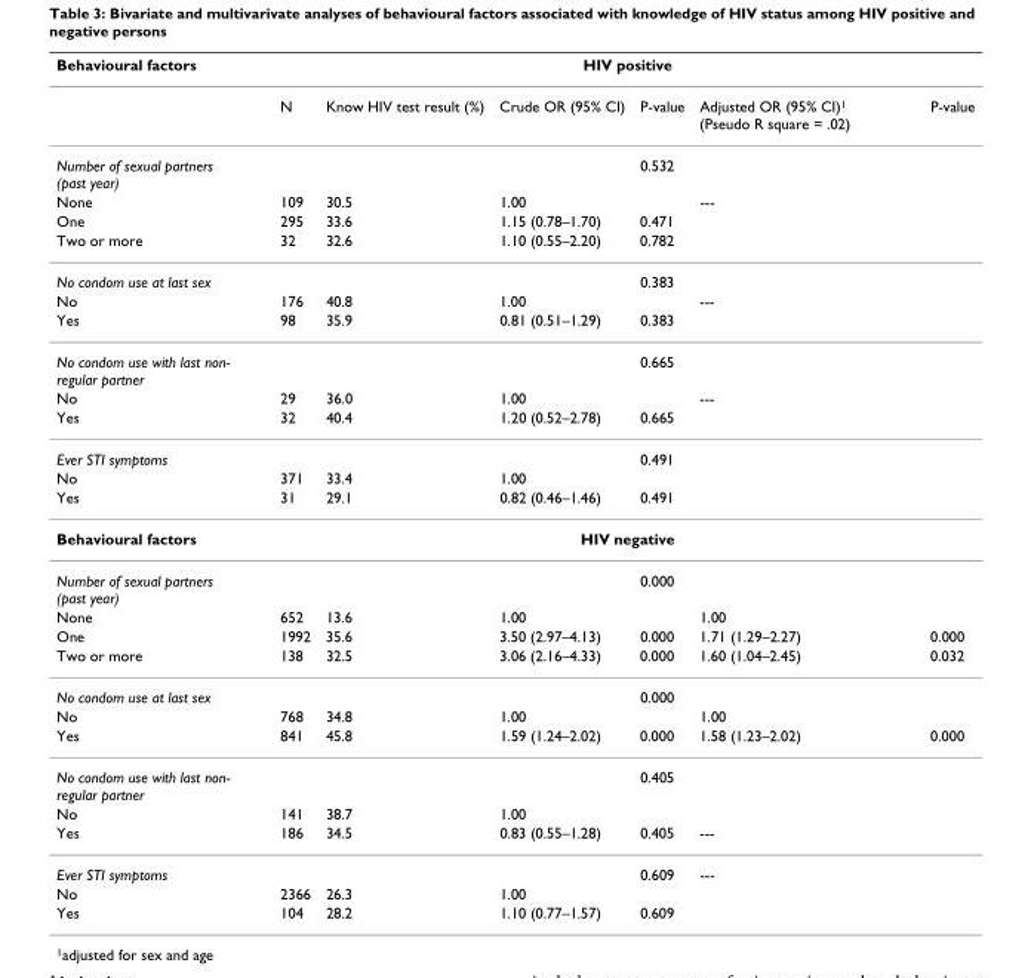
<table><thead><tr><td rowspan="2">Behavioural factors</td><td colspan="6">HIV positive</td></tr><tr><td>N</td><td>Know HIV test result (%)</td><td>Crude OR (95% CI)</td><td>P-value</td><td>Adjusted OR (95% CI)<sup>1</sup> (Pseudo R square = .02)</td><td>P-value</td></tr></thead><tbody><tr><td>Number of sexual partners (past year)</td><td></td><td></td><td></td><td>0.532</td><td></td><td></td></tr><tr><td>None</td><td>109</td><td>30.5</td><td>1.00</td><td></td><td>---</td><td></td></tr><tr><td>One</td><td>295</td><td>33.6</td><td>1.15 (0.78–1.70)</td><td>0.471</td><td></td><td></td></tr><tr><td>Two or more</td><td>32</td><td>32.6</td><td>1.10 (0.55–2.20)</td><td>0.782</td><td></td><td></td></tr><tr><td>No condom use at last sex</td><td></td><td></td><td></td><td>0.383</td><td></td><td></td></tr><tr><td>No</td><td>176</td><td>40.8</td><td>1.00</td><td></td><td>---</td><td></td></tr><tr><td>Yes</td><td>98</td><td>35.9</td><td>0.81 (0.51–1.29)</td><td>0.383</td><td></td><td></td></tr><tr><td>No condom use with last non- regular partner</td><td></td><td></td><td></td><td>0.665</td><td></td><td></td></tr><tr><td>No</td><td>29</td><td>36.0</td><td>1.00</td><td></td><td>---</td><td></td></tr><tr><td>Yes</td><td>32</td><td>40.4</td><td>1.20 (0.52–2.78)</td><td>0.665</td><td></td><td></td></tr><tr><td>Ever STI symptoms</td><td></td><td></td><td></td><td>0.491</td><td></td><td></td></tr><tr><td>No</td><td>371</td><td>33.4</td><td>1.00</td><td></td><td></td><td></td></tr><tr><td>Yes</td><td>31</td><td>29.1</td><td>0.82 (0.46–1.46)</td><td>0.491</td><td></td><td></td></tr><tr><td>Behavioural factors</td><td colspan="6">HIV negative</td></tr><tr><td>Number of sexual partners (past year)</td><td></td><td></td><td></td><td>0.000</td><td></td><td></td></tr><tr><td>None</td><td>652</td><td>13.6</td><td>1.00</td><td></td><td>1.00</td><td></td></tr><tr><td>One</td><td>1992</td><td>35.6</td><td>3.50 (2.97–4.13)</td><td>0.000</td><td>1.71 (1.29–2.27)</td><td>0.000</td></tr><tr><td>Two or more</td><td>138</td><td>32.5</td><td>3.06 (2.16–4.33)</td><td>0.000</td><td>1.60 (1.04–2.45)</td><td>0.032</td></tr><tr><td>No condom use at last sex</td><td></td><td></td><td></td><td>0.000</td><td></td><td></td></tr><tr><td>No</td><td>768</td><td>34.8</td><td>1.00</td><td></td><td>1.00</td><td></td></tr><tr><td>Yes</td><td>841</td><td>45.8</td><td>1.59 (1.24–2.02)</td><td>0.000</td><td>1.58 (1.23–2.02)</td><td>0.000</td></tr><tr><td>No condom use with last non- regular partner</td><td></td><td></td><td></td><td>0.405</td><td></td><td></td></tr><tr><td>No</td><td>141</td><td>38.7</td><td>1.00</td><td></td><td></td><td></td></tr><tr><td>Yes</td><td>186</td><td>34.5</td><td>0.83 (0.55–1.28)</td><td>0.405</td><td>---</td><td></td></tr><tr><td>Ever STI symptoms</td><td></td><td></td><td></td><td>0.609</td><td>---</td><td></td></tr><tr><td>No</td><td>2366</td><td>26.3</td><td>1.00</td><td></td><td></td><td></td></tr><tr><td>Yes</td><td>104</td><td>28.2</td><td>1.10 (0.77–1.57)</td><td>0.609</td><td></td><td></td></tr></tbody></table>